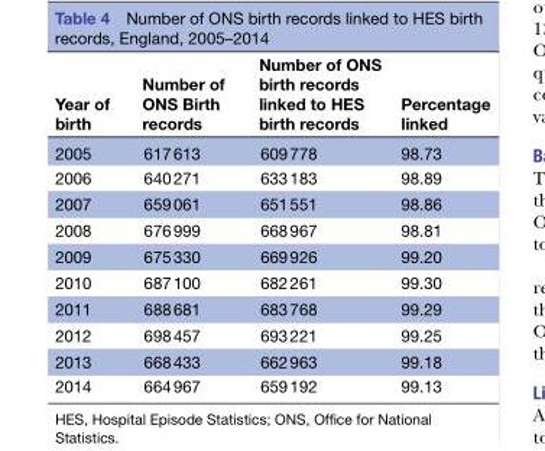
<table><thead><tr><td>Year of birth</td><td>Number of ONS Birth records</td><td>Number of ONS birth records linked to HES birth records</td><td>Percentage linked</td></tr></thead><tbody><tr><td>2005</td><td>617 613</td><td>609 778</td><td>98.73</td></tr><tr><td>2006</td><td>640 271</td><td>633 183</td><td>98.89</td></tr><tr><td>2007</td><td>659 061</td><td>651 551</td><td>98.86</td></tr><tr><td>2008</td><td>676 999</td><td>668 967</td><td>98.81</td></tr><tr><td>2009</td><td>675 330</td><td>669 926</td><td>99.20</td></tr><tr><td>2010</td><td>687 100</td><td>682 261</td><td>99.30</td></tr><tr><td>2011</td><td>688 681</td><td>683 768</td><td>99.29</td></tr><tr><td>2012</td><td>698 457</td><td>693 221</td><td>99.25</td></tr><tr><td>2013</td><td>668 433</td><td>662 963</td><td>99.18</td></tr><tr><td>2014</td><td>664 967</td><td>659 192</td><td>99.13</td></tr></tbody></table>